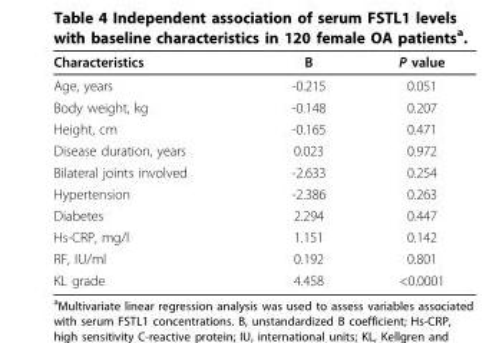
<table><thead><tr><td>Characteristics</td><td>B</td><td>P value</td></tr></thead><tbody><tr><td>Age, years</td><td>-0.215</td><td>0.051</td></tr><tr><td>Body weight, kg</td><td>-0.148</td><td>0.207</td></tr><tr><td>Height, cm</td><td>-0.165</td><td>0.471</td></tr><tr><td>Disease duration, years</td><td>0.023</td><td>0.972</td></tr><tr><td>Bilateral joints involved</td><td>-2.633</td><td>0.254</td></tr><tr><td>Hypertension</td><td>-2.386</td><td>0.263</td></tr><tr><td>Diabetes</td><td>2.294</td><td>0.447</td></tr><tr><td>Hs-CRP, mg/l</td><td>1.151</td><td>0.142</td></tr><tr><td>RF, IU/ml</td><td>0.192</td><td>0.801</td></tr><tr><td>KL grade</td><td>4.458</td><td>&lt;0.0001</td></tr></tbody></table>